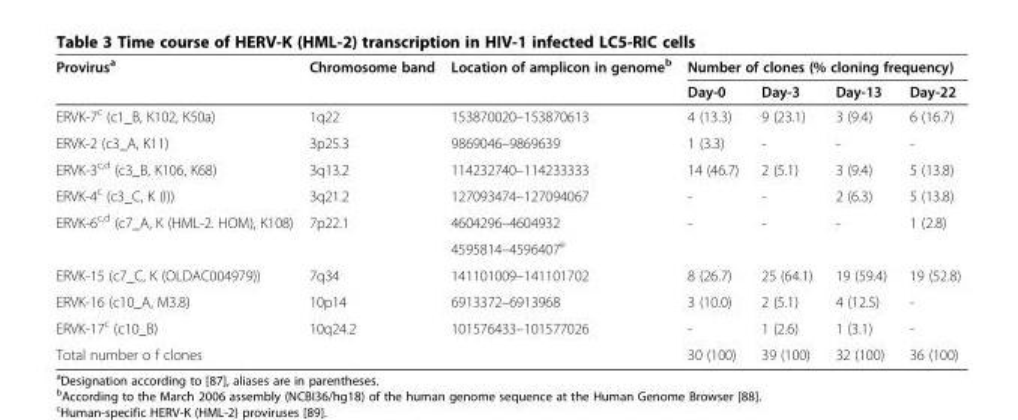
<table><thead><tr><td rowspan="2">Provirus<sup>a</sup></td><td rowspan="2">Chromosome band</td><td rowspan="2">Location of amplicon in genome<sup>b</sup></td><td colspan="4">Number of clones (% cloning frequency)</td></tr><tr><td>Day-0</td><td>Day-3</td><td>Day-13</td><td>Day-22</td></tr></thead><tbody><tr><td>ERVK-7<sup>c</sup> (c1_B, K102, K50a)</td><td>1q22</td><td>153870020–153870613</td><td>4 (13.3)</td><td>9 (23.1)</td><td>3 (9.4)</td><td>6 (16.7)</td></tr><tr><td>ERVK-2 (c3_A, K11)</td><td>3p25.3</td><td>9869046–9869639</td><td>1 (3.3)</td><td>-</td><td>-</td><td>-</td></tr><tr><td>ERVK-3<sup>c,d</sup> (c3_B, K106, K68)</td><td>3q13.2</td><td>114232740–114233333</td><td>14 (46.7)</td><td>2 (5.1)</td><td>3 (9.4)</td><td>5 (13.8)</td></tr><tr><td>ERVK-4<sup>c</sup> (c3_C, K (I))</td><td>3q21.2</td><td>127093474–127094067</td><td>-</td><td>-</td><td>2 (6.3)</td><td>5 (13.8)</td></tr><tr><td rowspan="2">ERVK-6<sup>c,d</sup> (c7_A, K (HML-2. HOM), K108)</td><td rowspan="2">7p22.1</td><td>4604296–4604932</td><td>-</td><td>-</td><td>-</td><td>1 (2.8)</td></tr><tr><td>4595814–4596407<sup>e</sup></td><td></td><td></td><td></td><td></td></tr><tr><td>ERVK-15 (c7_C, K (OLDAC004979))</td><td>7q34</td><td>141101009–141101702</td><td>8 (26.7)</td><td>25 (64.1)</td><td>19 (59.4)</td><td>19 (52.8)</td></tr><tr><td>ERVK-16 (c10_A, M3.8)</td><td>10p14</td><td>6913372–6913968</td><td>3 (10.0)</td><td>2 (5.1)</td><td>4 (12.5)</td><td>-</td></tr><tr><td>ERVK-17<sup>c</sup> (c10_B)</td><td>10q24.2</td><td>101576433–101577026</td><td>-</td><td>1 (2.6)</td><td>1 (3.1)</td><td>-</td></tr><tr><td colspan="3">Total number o f clones</td><td>30 (100)</td><td>39 (100)</td><td>32 (100)</td><td>36 (100)</td></tr></tbody></table>